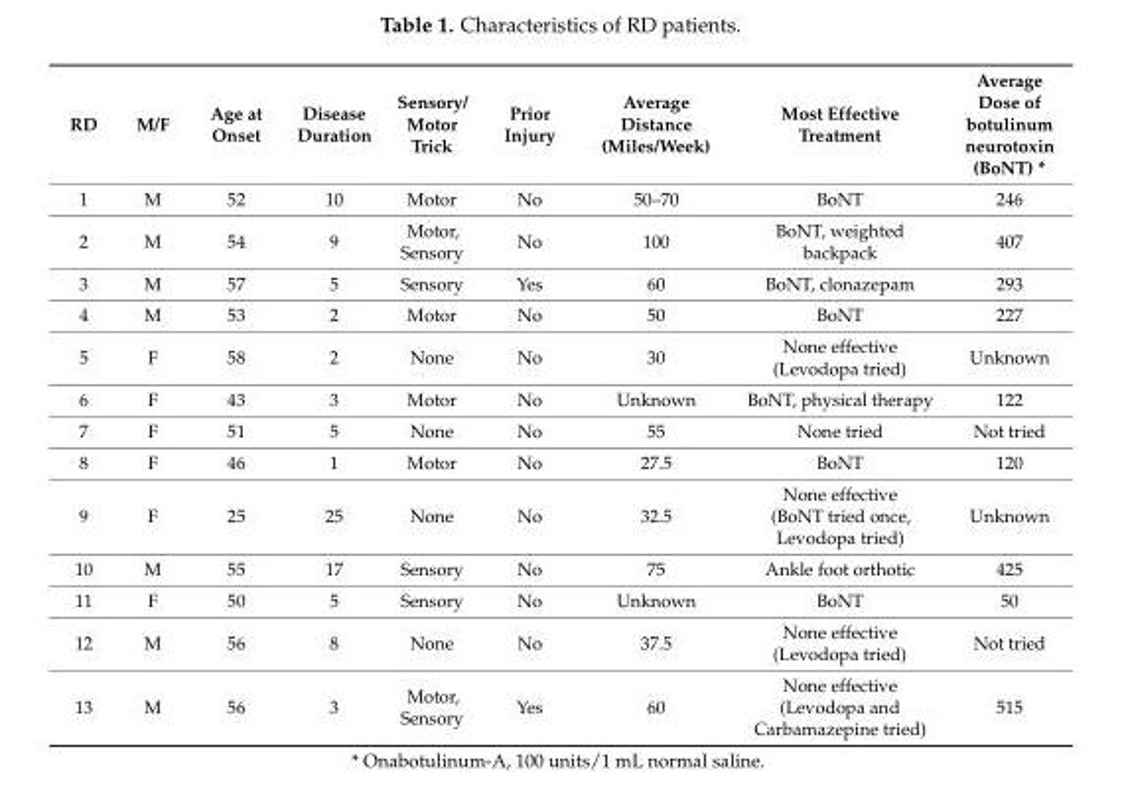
<table><thead><tr><td>RD</td><td>M/F</td><td>Age at Onset</td><td>Disease Duration</td><td>Sensory/ Motor Trick</td><td>Prior Injury</td><td>Average Distance (Miles/Week)</td><td>Most Effective Treatment</td><td>Average Dose of botulinum neurotoxin (BoNT) *</td></tr></thead><tbody><tr><td>1</td><td>M</td><td>52</td><td>10</td><td>Motor</td><td>No</td><td>50–70</td><td>BoNT</td><td>246</td></tr><tr><td>2</td><td>M</td><td>54</td><td>9</td><td>Motor, Sensory</td><td>No</td><td>100</td><td>BoNT, weighted backpack</td><td>407</td></tr><tr><td>3</td><td>M</td><td>57</td><td>5</td><td>Sensory</td><td>Yes</td><td>60</td><td>BoNT, clonazepam</td><td>293</td></tr><tr><td>4</td><td>M</td><td>53</td><td>2</td><td>Motor</td><td>No</td><td>50</td><td>BoNT</td><td>227</td></tr><tr><td>5</td><td>F</td><td>58</td><td>2</td><td>None</td><td>No</td><td>30</td><td>None effective (Levodopa tried)</td><td>Unknown</td></tr><tr><td>6</td><td>F</td><td>43</td><td>3</td><td>Motor</td><td>No</td><td>Unknown</td><td>BoNT, physical therapy</td><td>122</td></tr><tr><td>7</td><td>F</td><td>51</td><td>5</td><td>None</td><td>No</td><td>55</td><td>None tried</td><td>Not tried</td></tr><tr><td>8</td><td>F</td><td>46</td><td>1</td><td>Motor</td><td>No</td><td>27.5</td><td>BoNT</td><td>120</td></tr><tr><td>9</td><td>F</td><td>25</td><td>25</td><td>None</td><td>No</td><td>32.5</td><td>None effective (BoNT tried once, Levodopa tried)</td><td>Unknown</td></tr><tr><td>10</td><td>M</td><td>55</td><td>17</td><td>Sensory</td><td>No</td><td>75</td><td>Ankle foot orthotic</td><td>425</td></tr><tr><td>11</td><td>F</td><td>50</td><td>5</td><td>Sensory</td><td>No</td><td>Unknown</td><td>BoNT</td><td>50</td></tr><tr><td>12</td><td>M</td><td>56</td><td>8</td><td>None</td><td>No</td><td>37.5</td><td>None effective (Levodopa tried)</td><td>Not tried</td></tr><tr><td>13</td><td>M</td><td>56</td><td>3</td><td>Motor, Sensory</td><td>Yes</td><td>60</td><td>None effective (Levodopa and Carbamazepine tried)</td><td>515</td></tr></tbody></table>